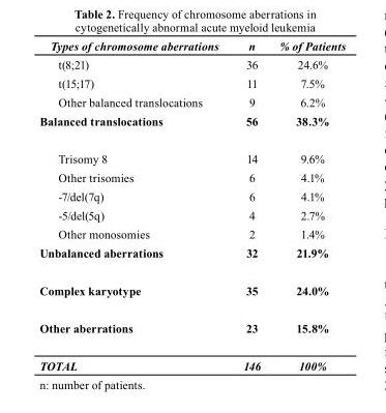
<table><thead><tr><td>Types of chromosome aberrations</td><td>n</td><td>% of Patients</td></tr></thead><tbody><tr><td>t(8;21)</td><td>36</td><td>24.6%</td></tr><tr><td>t(15;17)</td><td>11</td><td>7.5%</td></tr><tr><td>Other balanced translocations</td><td>9</td><td>6.2%</td></tr><tr><td>balanced translocations</td><td>56</td><td>38.3%</td></tr><tr><td>Trisomy 8</td><td>14</td><td>9.6%</td></tr><tr><td>Other trisomies</td><td>6</td><td>4.1%</td></tr><tr><td>-7/del(7q)</td><td>6</td><td>4.1%</td></tr><tr><td>-5/del(5q)</td><td>4</td><td>2.7%</td></tr><tr><td>Other monosomies</td><td>2</td><td>1.4%</td></tr><tr><td>Unbalanced aberrations</td><td>32</td><td>21.9%</td></tr><tr><td>complex karyotype</td><td>35</td><td>24.0%</td></tr><tr><td>Other aberrations</td><td>23</td><td>15.8%</td></tr><tr><td>TOTAL</td><td>146</td><td>100%</td></tr></tbody></table>